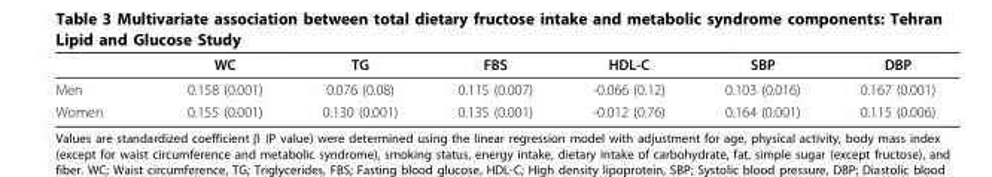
<table><thead><tr><td></td><td>WC</td><td>TG</td><td>FBS</td><td>HDL-C</td><td>SBP</td><td>DBP</td></tr></thead><tbody><tr><td>Men</td><td>0.158 (0.001)</td><td>0.076 (0.08)</td><td>0.115 (0.007)</td><td>-0.066 (0.12)</td><td>0.103 (0.016)</td><td>0.167 (0.001)</td></tr><tr><td>Women</td><td>0.155 (0.001)</td><td>0.130 (0.001)</td><td>0.135 (0.001)</td><td>-0.012 (0.76)</td><td>0.164 (0.001)</td><td>0.115 (0.006)</td></tr></tbody></table>